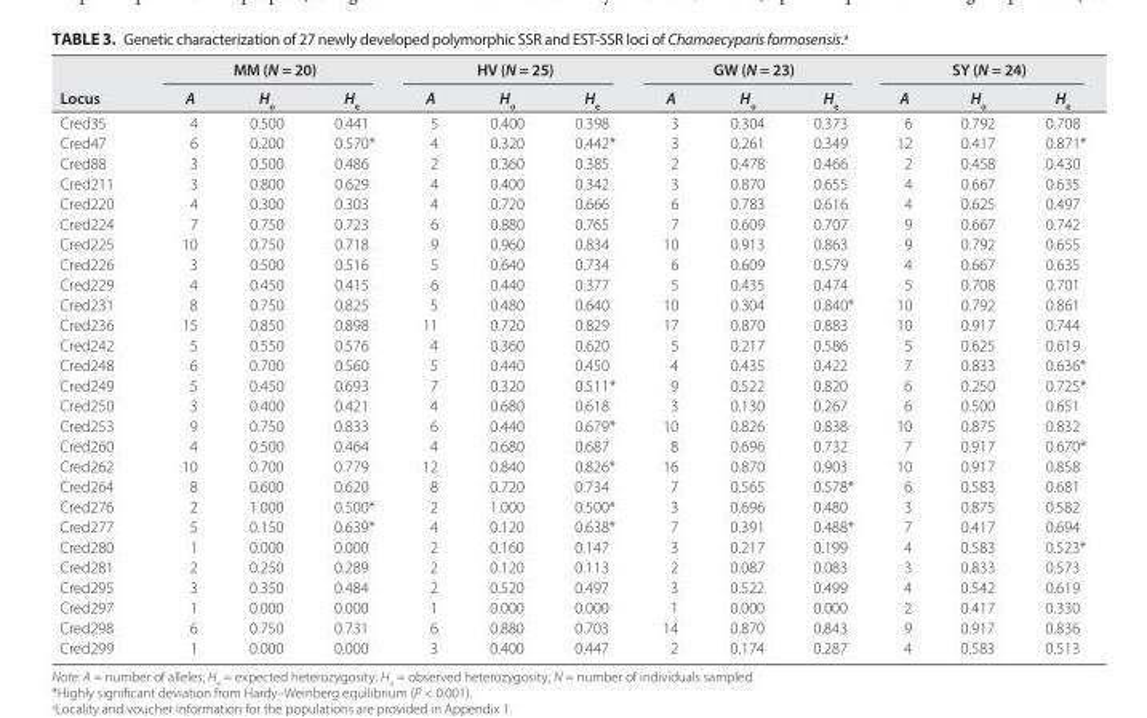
<table><thead><tr><td rowspan="2">Locus</td><td colspan="3">MM (N = 20)</td><td colspan="3">HV (N = 25)</td><td colspan="3">GW (N = 23)</td><td colspan="3">SY (N = 24)</td></tr><tr><td>A</td><td>H<sub>o</sub></td><td>H<sub>e</sub></td><td>A</td><td>H<sub>o</sub></td><td>H<sub>e</sub></td><td>A</td><td>H<sub>o</sub></td><td>H<sub>e</sub></td><td>A</td><td>H<sub>o</sub></td><td>H<sub>e</sub></td></tr></thead><tbody><tr><td>Cred35</td><td>4</td><td>0.500</td><td>0.441</td><td>5</td><td>0.400</td><td>0.398</td><td>3</td><td>0.304</td><td>0.373</td><td>6</td><td>0.792</td><td>0.708</td></tr><tr><td>Cred47</td><td>6</td><td>0.200</td><td>0.570*</td><td>4</td><td>0.320</td><td>0.442*</td><td>3</td><td>0.261</td><td>0.349</td><td>12</td><td>0.417</td><td>0.871*</td></tr><tr><td>Cred88</td><td>3</td><td>0.500</td><td>0.486</td><td>2</td><td>0.360</td><td>0.385</td><td>2</td><td>0.478</td><td>0.466</td><td>2</td><td>0.458</td><td>0.430</td></tr><tr><td>Cred211</td><td>3</td><td>0.800</td><td>0.629</td><td>4</td><td>0.400</td><td>0.342</td><td>3</td><td>0.870</td><td>0.655</td><td>4</td><td>0.667</td><td>0.635</td></tr><tr><td>Cred220</td><td>4</td><td>0.300</td><td>0.303</td><td>4</td><td>0.720</td><td>0.666</td><td>6</td><td>0.783</td><td>0.616</td><td>4</td><td>0.625</td><td>0.497</td></tr><tr><td>Cred224</td><td>7</td><td>0.750</td><td>0.723</td><td>6</td><td>0.880</td><td>0.765</td><td>7</td><td>0.609</td><td>0.707</td><td>9</td><td>0.667</td><td>0.742</td></tr><tr><td>Cred225</td><td>10</td><td>0.750</td><td>0.718</td><td>9</td><td>0.960</td><td>0.834</td><td>10</td><td>0.913</td><td>0.863</td><td>9</td><td>0.792</td><td>0.655</td></tr><tr><td>Cred226</td><td>3</td><td>0.500</td><td>0.516</td><td>5</td><td>0.640</td><td>0.734</td><td>6</td><td>0.609</td><td>0.579</td><td>4</td><td>0.667</td><td>0.635</td></tr><tr><td>Cred229</td><td>4</td><td>0.450</td><td>0.415</td><td>6</td><td>0.440</td><td>0.377</td><td>5</td><td>0.435</td><td>0.474</td><td>5</td><td>0.708</td><td>0.701</td></tr><tr><td>Cred231</td><td>8</td><td>0.750</td><td>0.825</td><td>5</td><td>0.480</td><td>0.640</td><td>10</td><td>0.304</td><td>0.840*</td><td>10</td><td>0.792</td><td>0.861</td></tr><tr><td>Cred236</td><td>15</td><td>0.850</td><td>0.898</td><td>11</td><td>0.720</td><td>0.829</td><td>17</td><td>0.870</td><td>0.883</td><td>10</td><td>0.917</td><td>0.744</td></tr><tr><td>Cred242</td><td>5</td><td>0.550</td><td>0.576</td><td>4</td><td>0.360</td><td>0.620</td><td>5</td><td>0.217</td><td>0.586</td><td>5</td><td>0.625</td><td>0.619</td></tr><tr><td>Cred248</td><td>6</td><td>0.700</td><td>0.560</td><td>5</td><td>0.440</td><td>0.450</td><td>4</td><td>0.435</td><td>0.422</td><td>7</td><td>0.833</td><td>0.636*</td></tr><tr><td>Cred249</td><td>5</td><td>0.450</td><td>0.693</td><td>7</td><td>0.320</td><td>0.511*</td><td>9</td><td>0.522</td><td>0.820</td><td>6</td><td>0.250</td><td>0.725*</td></tr><tr><td>Cred250</td><td>3</td><td>0.400</td><td>0.421</td><td>4</td><td>0.680</td><td>0.618</td><td>3</td><td>0.130</td><td>0.267</td><td>6</td><td>0.500</td><td>0.651</td></tr><tr><td>Cred253</td><td>9</td><td>0.750</td><td>0.833</td><td>6</td><td>0.440</td><td>0.679*</td><td>10</td><td>0.826</td><td>0.838</td><td>10</td><td>0.875</td><td>0.832</td></tr><tr><td>Cred260</td><td>4</td><td>0.500</td><td>0.464</td><td>4</td><td>0.680</td><td>0.687</td><td>8</td><td>0.696</td><td>0.732</td><td>7</td><td>0.917</td><td>0.670*</td></tr><tr><td>Cred262</td><td>10</td><td>0.700</td><td>0.779</td><td>12</td><td>0.840</td><td>0.826*</td><td>16</td><td>0.870</td><td>0.903</td><td>10</td><td>0.917</td><td>0.858</td></tr><tr><td>Cred264</td><td>8</td><td>0.600</td><td>0.620</td><td>8</td><td>0.720</td><td>0.734</td><td>7</td><td>0.565</td><td>0.578*</td><td>6</td><td>0.583</td><td>0.681</td></tr><tr><td>Cred276</td><td>2</td><td>1.000</td><td>0.500*</td><td>2</td><td>1.000</td><td>0.500*</td><td>3</td><td>0.696</td><td>0.480</td><td>3</td><td>0.875</td><td>0.582</td></tr><tr><td>Cred277</td><td>5</td><td>0.150</td><td>0.639*</td><td>4</td><td>0.120</td><td>0.638*</td><td>7</td><td>0.391</td><td>0.488*</td><td>7</td><td>0.417</td><td>0.694</td></tr><tr><td>Cred280</td><td>1</td><td>0.000</td><td>0.000</td><td>2</td><td>0.160</td><td>0.147</td><td>3</td><td>0.217</td><td>0.199</td><td>4</td><td>0.583</td><td>0.523*</td></tr><tr><td>Cred281</td><td>2</td><td>0.250</td><td>0.289</td><td>2</td><td>0.120</td><td>0.113</td><td>2</td><td>0.087</td><td>0.083</td><td>3</td><td>0.833</td><td>0.573</td></tr><tr><td>Cred295</td><td>3</td><td>0.350</td><td>0.484</td><td>2</td><td>0.520</td><td>0.497</td><td>3</td><td>0.522</td><td>0.499</td><td>4</td><td>0.542</td><td>0.619</td></tr><tr><td>Cred297</td><td>1</td><td>0.000</td><td>0.000</td><td>1</td><td>0.000</td><td>0.000</td><td>1</td><td>0.000</td><td>0.000</td><td>2</td><td>0.417</td><td>0.330</td></tr><tr><td>Cred298</td><td>6</td><td>0.750</td><td>0.731</td><td>6</td><td>0.880</td><td>0.703</td><td>14</td><td>0.870</td><td>0.843</td><td>9</td><td>0.917</td><td>0.836</td></tr><tr><td>Cred299</td><td>1</td><td>0.000</td><td>0.000</td><td>3</td><td>0.400</td><td>0.447</td><td>2</td><td>0.174</td><td>0.287</td><td>4</td><td>0.583</td><td>0.513</td></tr></tbody></table>